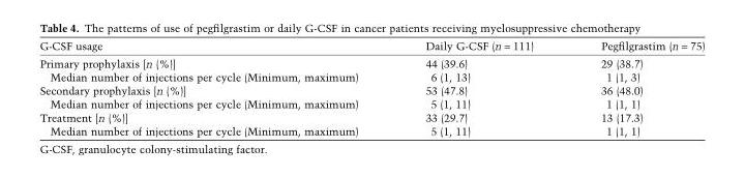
<table><thead><tr><td>G-CSF usage</td><td>Daily G-CSF (n = 111)</td><td>Pegfilgrastim (n = 75)</td></tr></thead><tbody><tr><td>Primary prophylaxis [n (%)]</td><td>44 (39.6)</td><td>29 (38.7)</td></tr><tr><td>Median number of injections per cycle (Minimum, maximum)</td><td>6 (1, 13)</td><td>1 (1, 3)</td></tr><tr><td>Secondary prophylaxis [n (%)]</td><td>53 (47.8)</td><td>36 (48.0)</td></tr><tr><td>Median number of injections per cycle (Minimum, maximum)</td><td>5 (1, 11)</td><td>1 (1, 1)</td></tr><tr><td>Treatment [n (%)]</td><td>33 (29.7)</td><td>13 (17.3)</td></tr><tr><td>Median number of injections per cycle (Minimum, maximum)</td><td>5 (1, 11)</td><td>1 (1, 1)</td></tr></tbody></table>